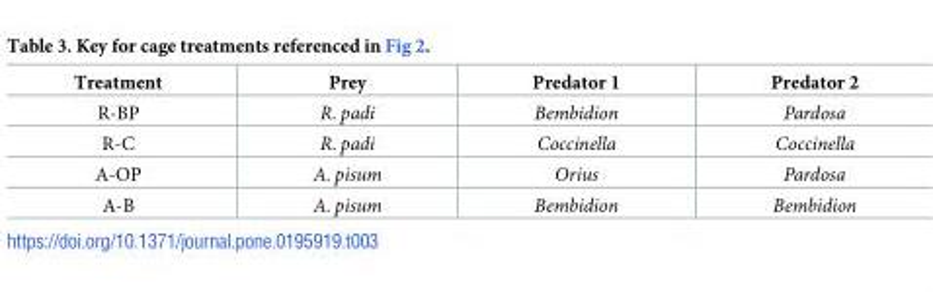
<table><thead><tr><td>Treatment</td><td>Prey</td><td>Predator 1</td><td>Predator 2</td></tr></thead><tbody><tr><td>R-BP</td><td>R. padi</td><td>Bembidion</td><td>Pardosa</td></tr><tr><td>R-C</td><td>R. padi</td><td>Coccinella</td><td>Coccinella</td></tr><tr><td>A-OP</td><td>A. pisum</td><td>Orius</td><td>Pardosa</td></tr><tr><td>A-B</td><td>A. pisum</td><td>Bembidion</td><td>Bembidion</td></tr></tbody></table>